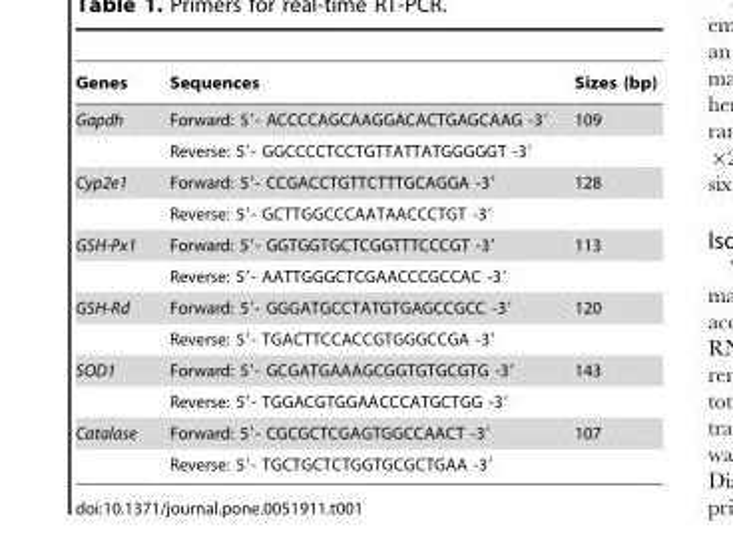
<table><thead><tr><td>Genes</td><td>Sequences</td><td>Sizes (bp)</td></tr></thead><tbody><tr><td rowspan="2">Gapdh</td><td>Forward: 5′- ACCCCAGCAAGGACACTGAGCAAG -3′</td><td>109</td></tr><tr><td>Reverse: 5′- GGCCCCTCCTGTTATTATGGGGGT -3′</td><td></td></tr><tr><td rowspan="2">Cyp2e1</td><td>Forward: 5′- CCGACCTGTTCTTTGCAGGA -3′</td><td>128</td></tr><tr><td>Reverse: 5′- GCTTGGCCCAATAACCCTGT -3′</td><td></td></tr><tr><td rowspan="2">GSH-Px1</td><td>Forward: 5′- GGTGGTGCTCGGTTTCCCGT -3′</td><td>113</td></tr><tr><td>Reverse: 5′- AATTGGGCTCGAACCCGCCAC -3′</td><td></td></tr><tr><td rowspan="2">GSH-Rd</td><td>Forward: 5′- GGGATGCCTATGTGAGCCGCC -3′</td><td>120</td></tr><tr><td>Reverse: 5′- TGACTTCCACCGTGGGCCGA -3′</td><td></td></tr><tr><td rowspan="2">SOD1</td><td>Forward: 5′- GCGATGAAAGCGGTGTGCGTG -3′</td><td>143</td></tr><tr><td>Reverse: 5′- TGGACGTGGAACCCATGCTGG -3′</td><td></td></tr><tr><td rowspan="2">Catalase</td><td>Forward: 5′- CGCGCTCGAGTGGCCAACT -3′</td><td>107</td></tr><tr><td>Reverse: 5′- TGCTGCTCTGGTGCGCTGAA -3′</td><td></td></tr></tbody></table>